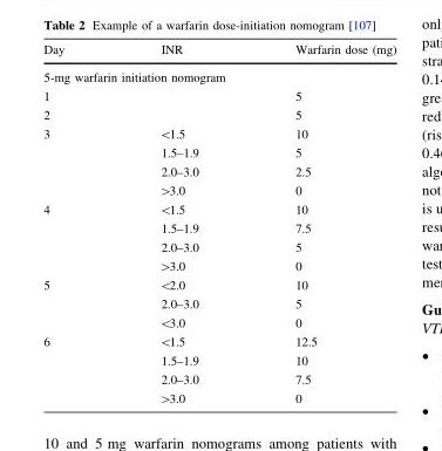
<table><thead><tr><td>Day</td><td>INR</td><td>Warfarin dose (mg)</td></tr></thead><tbody><tr><td colspan="3">5-mg warfarin initiation nomogram</td></tr><tr><td>1</td><td></td><td>5</td></tr><tr><td>2</td><td></td><td>5</td></tr><tr><td rowspan="4">3</td><td>&lt;1.5</td><td>10</td></tr><tr><td>1.5–1.9</td><td>5</td></tr><tr><td>2.0–3.0</td><td>2.5</td></tr><tr><td>&gt;3.0</td><td>0</td></tr><tr><td rowspan="4">4</td><td>&lt;1.5</td><td>10</td></tr><tr><td>1.5–1.9</td><td>7.5</td></tr><tr><td>2.0–3.0</td><td>5</td></tr><tr><td>&gt;3.0</td><td>0</td></tr><tr><td rowspan="3">5</td><td>&lt;2.0</td><td>10</td></tr><tr><td>2.0–3.0</td><td>5</td></tr><tr><td>&lt;3.0</td><td>0</td></tr><tr><td rowspan="4">6</td><td>&lt;1.5</td><td>12.5</td></tr><tr><td>1.5–1.9</td><td>10</td></tr><tr><td>2.0–3.0</td><td>7.5</td></tr><tr><td>&gt;3.0</td><td>0</td></tr></tbody></table>